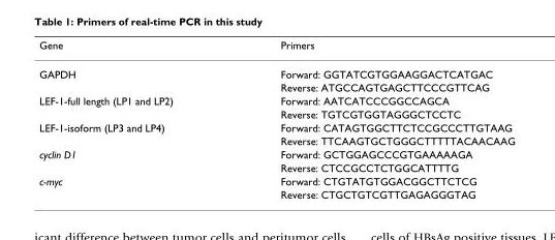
<table><thead><tr><td>Gene</td><td>Primers</td></tr></thead><tbody><tr><td rowspan="2">GAPDH</td><td>Forward: GGTATCGTGGAAGGACTCATGAC</td></tr><tr><td>Reverse: ATGCCAGTGAGCTTCCCGTTCAG</td></tr><tr><td rowspan="2">LEF-1-full length (LP1 and LP2)</td><td>Forward: AATCATCCCGGCCAGCA</td></tr><tr><td>Reverse: TGTCGTGGTAGGGCTCCTC</td></tr><tr><td rowspan="2">LEF-1-isoform (LP3 and LP4)</td><td>Forward: CATAGTGGCTTCTCCGCCCTTGTAAG</td></tr><tr><td>Reverse: TTCAAGTGCTGGGCTTTTTACAACAAG</td></tr><tr><td rowspan="2">cyclin D1</td><td>Forward: GCTGGAGCCCGTGAAAAAGA</td></tr><tr><td>Reverse: CTCCGCCTCTGGCATTTTG</td></tr><tr><td rowspan="2">c-myc</td><td>Forward: CTGTATGTGGACGGCTTCTCG</td></tr><tr><td>Reverse: CTGCTGTCGTTGAGAGGGTAG</td></tr></tbody></table>